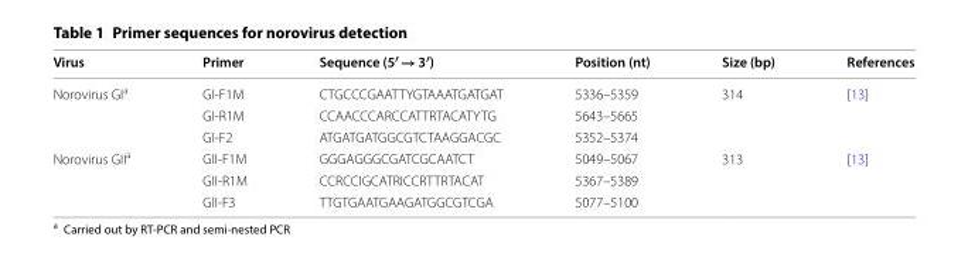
<table><thead><tr><td>Virus</td><td>Primer</td><td>Sequence (5′ → 3′)</td><td>Position (nt)</td><td>Size (bp)</td><td>References</td></tr></thead><tbody><tr><td rowspan="3">Norovirus GI<sup>a</sup></td><td>GI‑F1M</td><td>CTG CCC GAA TTY GTA AAT GAT GAT</td><td>5336–5359</td><td rowspan="3">314</td><td rowspan="3">[13]</td></tr><tr><td>GI‑R1M</td><td>CCA ACC CAR CCA TTR TAC ATYTG</td><td>5643–5665</td></tr><tr><td>GI‑F2</td><td>ATG ATG ATG GCG TCT AAG GACGC</td><td>5352–5374</td></tr><tr><td rowspan="3">Norovirus GII<sup>a</sup></td><td>GII‑F1M</td><td>GGG AGG GCG ATC GCA ATC T</td><td>5049–5067</td><td rowspan="3">313</td><td rowspan="3">[13]</td></tr><tr><td>GII‑R1M</td><td>CCRCCIGCATRICCR TTR TACAT</td><td>5367–5389</td></tr><tr><td>GII‑F3</td><td>TTG TGA ATG AAG ATG GCG TCGA</td><td>5077–5100</td></tr></tbody></table>